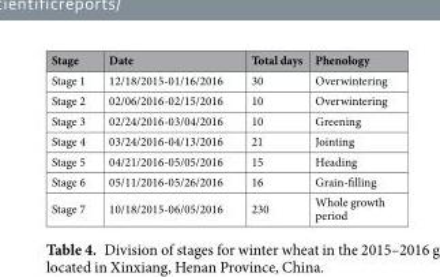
<table><thead><tr><td>Stage</td><td>Date</td><td>Total days</td><td>Phenology</td></tr></thead><tbody><tr><td>Stage 1</td><td>12/18/2015-01/16/2016</td><td>30</td><td>Overwintering</td></tr><tr><td>Stage 2</td><td>02/06/2016-02/15/2016</td><td>10</td><td>Overwintering</td></tr><tr><td>Stage 3</td><td>02/24/2016-03/04/2016</td><td>10</td><td>Greening</td></tr><tr><td>Stage 4</td><td>03/24/2016-04/13/2016</td><td>21</td><td>Jointing</td></tr><tr><td>Stage 5</td><td>04/21/2016-05/05/2016</td><td>15</td><td>Heading</td></tr><tr><td>Stage 6</td><td>05/11/2016-05/26/2016</td><td>16</td><td>Grain-filling</td></tr><tr><td>Stage 7</td><td>10/18/2015-06/05/2016</td><td>230</td><td>Whole growth period</td></tr></tbody></table>